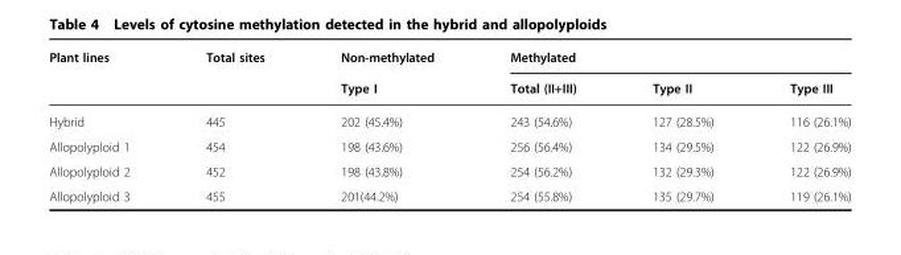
<table><thead><tr><td rowspan="2">Plant lines</td><td rowspan="2">Total sites</td><td rowspan="2">Non-methylated Type I</td><td colspan="3">Methylated</td></tr><tr><td>Total (II+III)</td><td>Type II</td><td>Type III</td></tr></thead><tbody><tr><td>Hybrid</td><td>445</td><td>202 (45.4%)</td><td>243 (54.6%)</td><td>127 (28.5%)</td><td>116 (26.1%)</td></tr><tr><td>Allopolyploid 1</td><td>454</td><td>198 (43.6%)</td><td>256 (56.4%)</td><td>134 (29.5%)</td><td>122 (26.9%)</td></tr><tr><td>Allopolyploid 2</td><td>452</td><td>198 (43.8%)</td><td>254 (56.2%)</td><td>132 (29.3%)</td><td>122 (26.9%)</td></tr><tr><td>Allopolyploid 3</td><td>455</td><td>201(44.2%)</td><td>254 (55.8%)</td><td>135 (29.7%)</td><td>119 (26.1%)</td></tr></tbody></table>